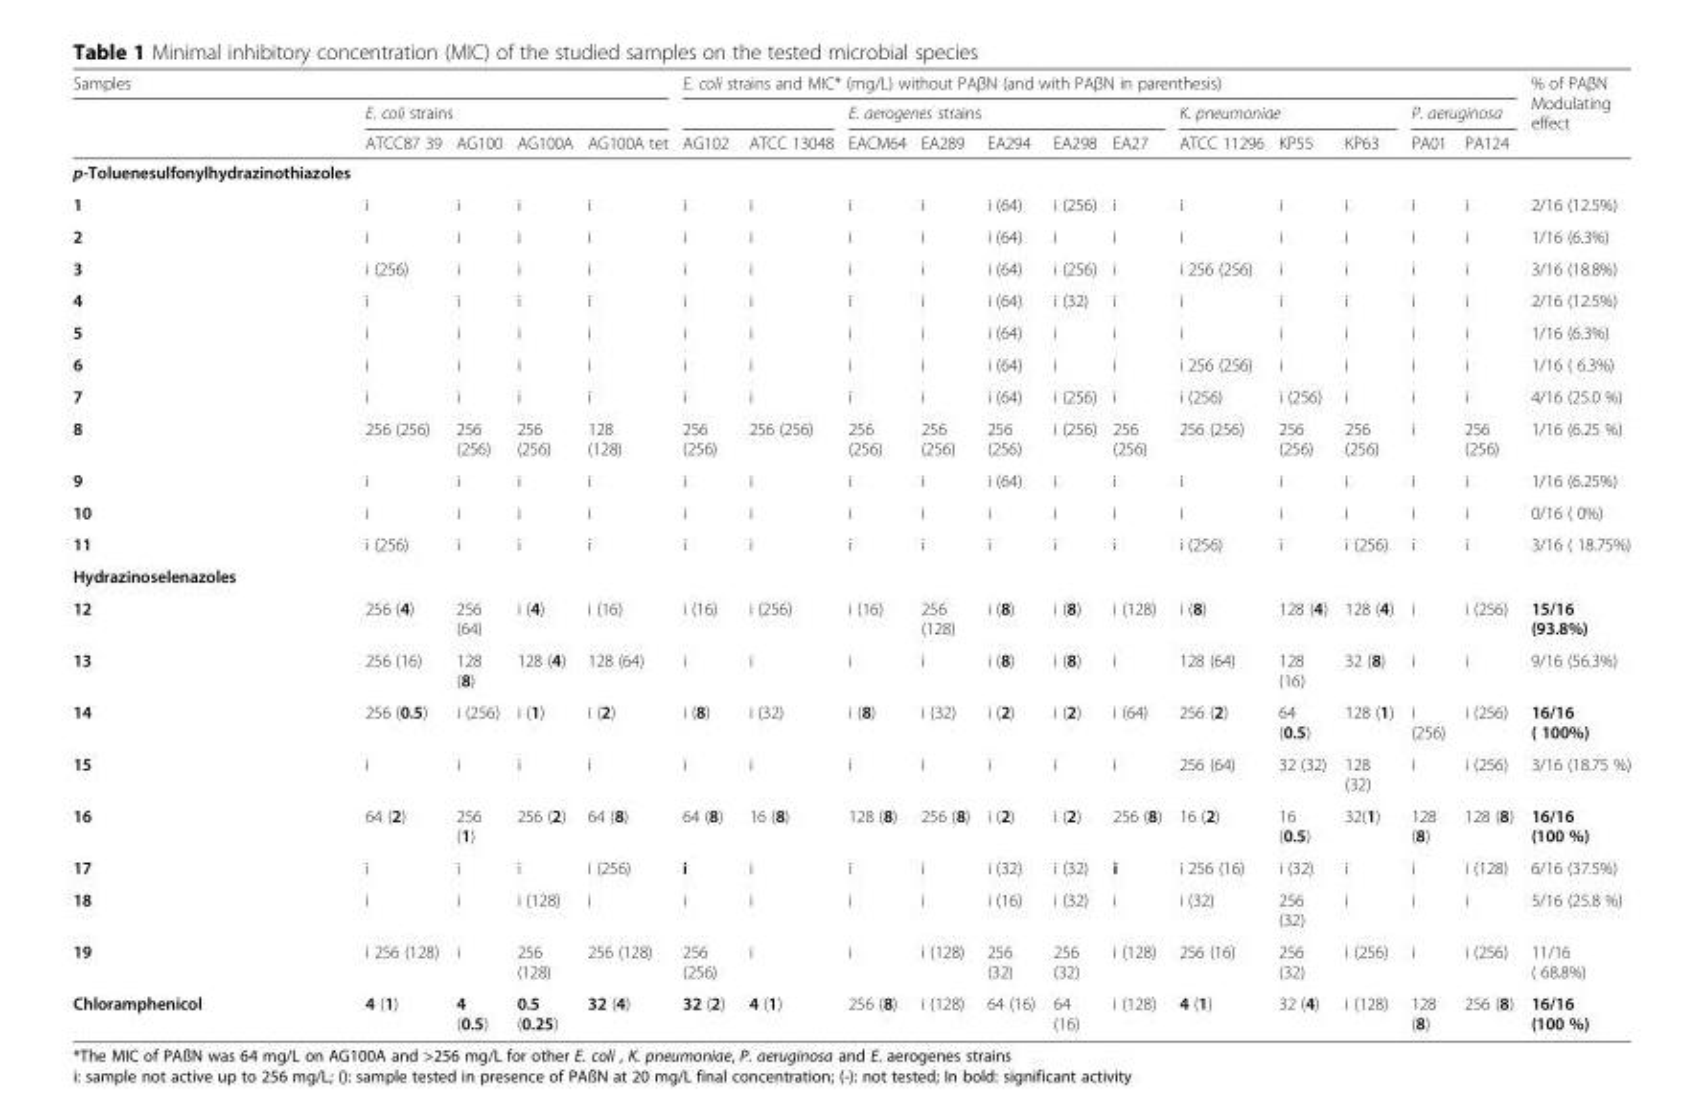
<table><thead><tr><td colspan="5">Samples</td><td colspan="12">E. coli strains and MIC* (mg/L) without PAβN (and with PAβN in parenthesis)</td><td rowspan="3">% of PAβN Modulating effect</td></tr><tr><td rowspan="2"></td><td colspan="4">E. coli strains</td><td rowspan="2">AG102</td><td rowspan="2">ATCC 13048</td><td colspan="5">E. aerogenes strains</td><td colspan="3">K. pneumoniae</td><td colspan="2">P. aeruginosa</td></tr><tr><td>ATCC87 39</td><td>AG100</td><td>AG100A</td><td>AG100A tet</td><td>EACM64</td><td>EA289</td><td>EA294</td><td>EA298</td><td>EA27</td><td>ATCC 11296</td><td>KP55</td><td>KP63</td><td>PA01</td><td>PA124</td></tr></thead><tbody><tr><td colspan="18">p-Toluenesulfonylhydrazinothiazoles</td></tr><tr><td>1</td><td>i</td><td>i</td><td>i</td><td>i</td><td>i</td><td>i</td><td>i</td><td>i</td><td>i (64)</td><td>i (256)</td><td>i</td><td>i</td><td>i</td><td>i</td><td>i</td><td>i</td><td>2/16 (12.5%)</td></tr><tr><td>2</td><td>i</td><td>i</td><td>i</td><td>i</td><td>i</td><td>i</td><td>i</td><td>i</td><td>i (64)</td><td>i</td><td>i</td><td>i</td><td>i</td><td>i</td><td>i</td><td>i</td><td>1/16 (6.3%)</td></tr><tr><td>3</td><td>i (256)</td><td>i</td><td>i</td><td>i</td><td>i</td><td>i</td><td>i</td><td>i</td><td>i (64)</td><td>i (256)</td><td>i</td><td>i 256 (256)</td><td>i</td><td>i</td><td>i</td><td>i</td><td>3/16 (18.8%)</td></tr><tr><td>4</td><td>i</td><td>i</td><td>i</td><td>i</td><td>i</td><td>i</td><td>i</td><td>i</td><td>i (64)</td><td>i (32)</td><td>i</td><td>i</td><td>i</td><td>i</td><td>i</td><td>i</td><td>2/16 (12.5%)</td></tr><tr><td>5</td><td>i</td><td>i</td><td>i</td><td>i</td><td>i</td><td>i</td><td>i</td><td>i</td><td>i (64)</td><td>i</td><td>i</td><td>i</td><td>i</td><td>i</td><td>i</td><td>i</td><td>1/16 (6.3%)</td></tr><tr><td>6</td><td>i</td><td>i</td><td>i</td><td>i</td><td>i</td><td>i</td><td>i</td><td>i</td><td>i (64)</td><td>i</td><td>i</td><td>i 256 (256)</td><td>i</td><td>i</td><td>i</td><td>i</td><td>1/16 ( 6.3%)</td></tr><tr><td>7</td><td>i</td><td>i</td><td>i</td><td>i</td><td>i</td><td>i</td><td>i</td><td>i</td><td>i (64)</td><td>i (256)</td><td>i</td><td>i (256)</td><td>i (256)</td><td>i</td><td>i</td><td>i</td><td>4/16 (25.0 %)</td></tr><tr><td>8</td><td>256 (256)</td><td>256 (256)</td><td>256 (256)</td><td>128 (128)</td><td>256 (256)</td><td>256 (256)</td><td>256 (256)</td><td>256 (256)</td><td>256 (256)</td><td>i (256)</td><td>256 (256)</td><td>256 (256)</td><td>256 (256)</td><td>256 (256)</td><td>i</td><td>256 (256)</td><td>1/16 (6.25 %)</td></tr><tr><td>9</td><td>i</td><td>i</td><td>i</td><td>i</td><td>i</td><td>i</td><td>i</td><td>i</td><td>i (64)</td><td>i</td><td>i</td><td>i</td><td>i</td><td>i</td><td>i</td><td>i</td><td>1/16 (6.25%)</td></tr><tr><td>10</td><td>i</td><td>i</td><td>i</td><td>i</td><td>i</td><td>i</td><td>i</td><td>i</td><td>i</td><td>i</td><td>i</td><td>i</td><td>i</td><td>i</td><td>i</td><td>i</td><td>0/16 ( 0%)</td></tr><tr><td>11</td><td>i (256)</td><td>i</td><td>i</td><td>i</td><td>i</td><td>i</td><td>i</td><td>i</td><td>i</td><td>i</td><td>i</td><td>i (256)</td><td>i</td><td>i (256)</td><td>i</td><td>i</td><td>3/16 ( 18.75%)</td></tr><tr><td colspan="18">Hydrazinoselenazoles</td></tr><tr><td>12</td><td>256 (4)</td><td>256 (64)</td><td>i (4)</td><td>i (16)</td><td>i (16)</td><td>i (256)</td><td>i (16)</td><td>256 (128)</td><td>i (8)</td><td>i (8)</td><td>i (128)</td><td>i (8)</td><td>128 (4)</td><td>128 (4)</td><td>i</td><td>i (256)</td><td>15/16 (93.8%)</td></tr><tr><td>13</td><td>256 (16)</td><td>128 (8)</td><td>128 (4)</td><td>128 (64)</td><td>i</td><td>i</td><td>i</td><td>i</td><td>i (8)</td><td>i (8)</td><td>i</td><td>128 (64)</td><td>128 (16)</td><td>32 (8)</td><td>i</td><td>i</td><td>9/16 (56.3%)</td></tr><tr><td>14</td><td>256 (0.5)</td><td>i (256)</td><td>i (1)</td><td>i (2)</td><td>i (8)</td><td>i (32)</td><td>i (8)</td><td>i (32)</td><td>i (2)</td><td>i (2)</td><td>i (64)</td><td>256 (2)</td><td>64 (0.5)</td><td>128 (1)</td><td>i (256)</td><td>i (256)</td><td>16/16 ( 100%)</td></tr><tr><td>15</td><td>i</td><td>i</td><td>i</td><td>i</td><td>i</td><td>i</td><td>i</td><td>i</td><td>i</td><td>i</td><td>i</td><td>256 (64)</td><td>32 (32)</td><td>128 (32)</td><td>i</td><td>i (256)</td><td>3/16 (18.75 %)</td></tr><tr><td>16</td><td>64 (2)</td><td>256 (1)</td><td>256 (2)</td><td>64 (8)</td><td>64 (8)</td><td>16 (8)</td><td>128 (8)</td><td>256 (8)</td><td>i (2)</td><td>i (2)</td><td>256 (8)</td><td>16 (2)</td><td>16 (0.5)</td><td>32(1)</td><td>128 (8)</td><td>128 (8)</td><td>16/16 (100 %)</td></tr><tr><td>17</td><td>i</td><td>i</td><td>i</td><td>i (256)</td><td>i</td><td>i</td><td>i</td><td>i</td><td>i (32)</td><td>i (32)</td><td>i</td><td>i 256 (16)</td><td>i (32)</td><td>i</td><td>i</td><td>i (128)</td><td>6/16 (37.5%)</td></tr><tr><td>18</td><td>i</td><td>i</td><td>i (128)</td><td>i</td><td>i</td><td>i</td><td>i</td><td>i</td><td>i (16)</td><td>i (32)</td><td>i</td><td>i (32)</td><td>256 (32)</td><td>i</td><td>i</td><td>i</td><td>5/16 (25.8 %)</td></tr><tr><td>19</td><td>i 256 (128)</td><td>i</td><td>256 (128)</td><td>256 (128)</td><td>256 (256)</td><td>i</td><td>i</td><td>i (128)</td><td>256 (32)</td><td>256 (32)</td><td>i (128)</td><td>256 (16)</td><td>256 (32)</td><td>i (256)</td><td>i</td><td>i (256)</td><td>11/16 ( 68.8%)</td></tr><tr><td>Chloramphenicol</td><td>4 (1)</td><td>4 (0.5)</td><td>0.5 (0.25)</td><td>32 (4)</td><td>32 (2)</td><td>4 (1)</td><td>256 (8)</td><td>i (128)</td><td>64 (16)</td><td>64 (16)</td><td>i (128)</td><td>4 (1)</td><td>32 (4)</td><td>i (128)</td><td>128 (8)</td><td>256 (8)</td><td>16/16 (100 %)</td></tr></tbody></table>